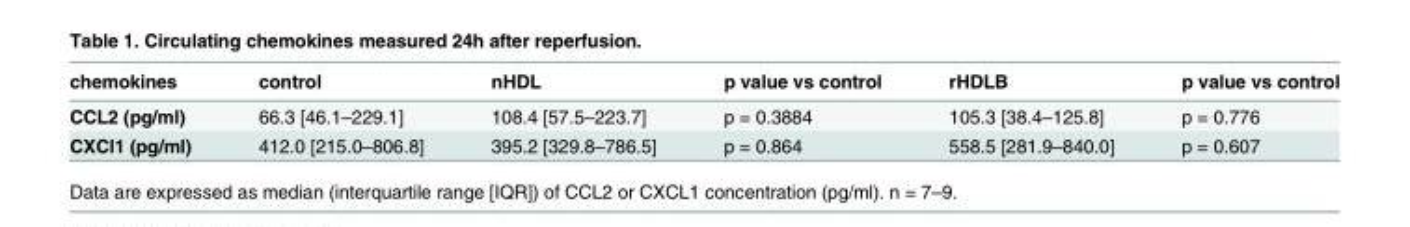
<table><thead><tr><td>chemokines</td><td>control</td><td>nHDL</td><td>p value vs control</td><td>rHDLB</td><td>p value vs control</td></tr></thead><tbody><tr><td>CCL2 (pg/ml)</td><td>66.3 [46.1–229.1]</td><td>108.4 [57.5–223.7]</td><td>p = 0.3884</td><td>105.3 [38.4–125.8]</td><td>p = 0.776</td></tr><tr><td>CXCl1 (pg/ml)</td><td>412.0 [215.0–806.8]</td><td>395.2 [329.8–786.5]</td><td>p = 0.864</td><td>558.5 [281.9–840.0]</td><td>p = 0.607</td></tr></tbody></table>